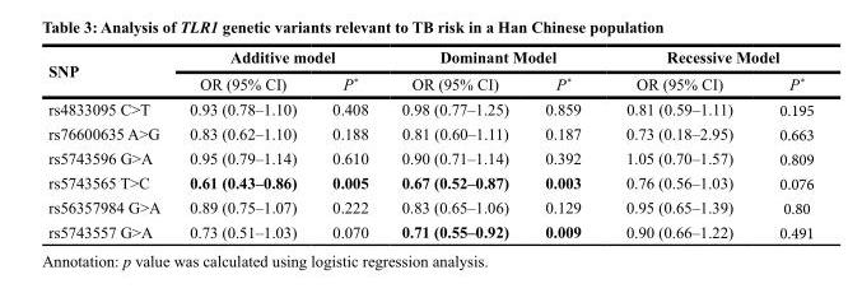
<table><thead><tr><td rowspan="2">SNP</td><td colspan="2">Additive model</td><td colspan="2">Dominant Model</td><td colspan="2">Recessive Model</td></tr><tr><td>OR (95% CI)</td><td>P*</td><td>OR (95% CI)</td><td>P*</td><td>OR (95% CI)</td><td>P*</td></tr></thead><tbody><tr><td>rs4833095 C&gt;T</td><td>0.93 (0.78–1.10)</td><td>0.408</td><td>0.98 (0.77–1.25)</td><td>0.859</td><td>0.81 (0.59–1.11)</td><td>0.195</td></tr><tr><td>rs76600635 A&gt;G</td><td>0.83 (0.62–1.10)</td><td>0.188</td><td>0.81 (0.60–1.11)</td><td>0.187</td><td>0.73 (0.18–2.95)</td><td>0.663</td></tr><tr><td>rs5743596 G&gt;A</td><td>0.95 (0.79–1.14)</td><td>0.610</td><td>0.90 (0.71–1.14)</td><td>0.392</td><td>1.05 (0.70–1.57)</td><td>0.809</td></tr><tr><td>rs5743565 T&gt;C</td><td>0.61 (0.43–0.86)</td><td>0.005</td><td>0.67 (0.52–0.87)</td><td>0.003</td><td>0.76 (0.56–1.03)</td><td>0.076</td></tr><tr><td>rs56357984 G&gt;A</td><td>0.89 (0.75–1.07)</td><td>0.222</td><td>0.83 (0.65–1.06)</td><td>0.129</td><td>0.95 (0.65–1.39)</td><td>0.80</td></tr><tr><td>rs5743557 G&gt;A</td><td>0.73 (0.51–1.03)</td><td>0.070</td><td>0.71 (0.55–0.92)</td><td>0.009</td><td>0.90 (0.66–1.22)</td><td>0.491</td></tr></tbody></table>